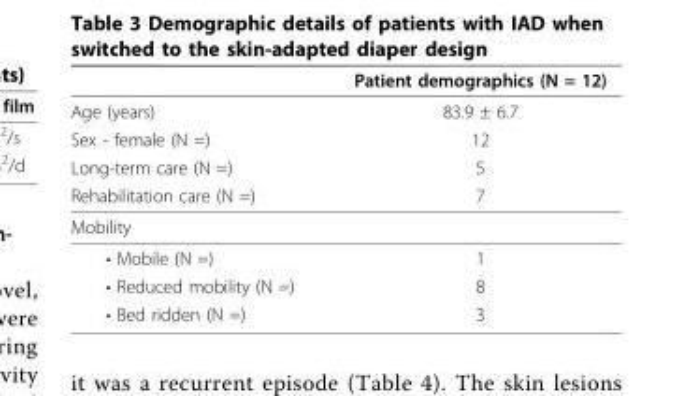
<table><thead><tr><td></td><td>Patient demographics (N = 12)</td></tr></thead><tbody><tr><td>Age (years)</td><td>83.9 ± 6.7</td></tr><tr><td>Sex - female (N =)</td><td>12</td></tr><tr><td>Long-term care (N =)</td><td>5</td></tr><tr><td>Rehabilitation care (N =)</td><td>7</td></tr><tr><td colspan="2">Mobility</td></tr><tr><td>• Mobile (N =)</td><td>1</td></tr><tr><td>• Reduced mobility (N =)</td><td>8</td></tr><tr><td>• Bed ridden (N =)</td><td>3</td></tr></tbody></table>